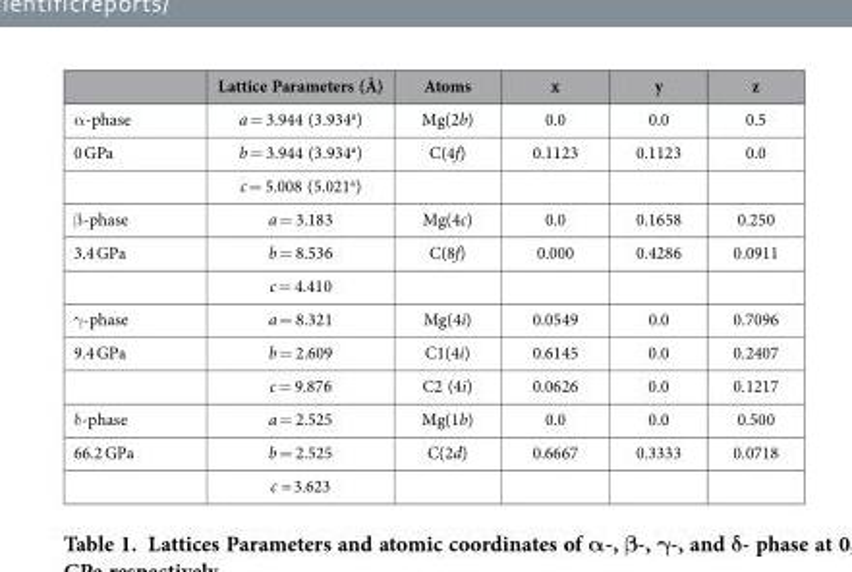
<table><thead><tr><td></td><td>Lattice Parameters (Å)</td><td>Atoms</td><td>x</td><td>y</td><td>z</td></tr></thead><tbody><tr><td>α -phase</td><td>a = 3.944 (3.934<sup>a</sup>)</td><td>Mg(2b)</td><td>0.0</td><td>0.0</td><td>0.5</td></tr><tr><td rowspan="2">0 GPa</td><td>b = 3.944 (3.934<sup>a</sup>)</td><td>C(4f)</td><td>0.1123</td><td>0.1123</td><td>0.0</td></tr><tr><td>c = 5.008 (5.021<sup>a</sup>)</td><td></td><td></td><td></td><td></td></tr><tr><td>β -phase</td><td>a = 3.183</td><td>Mg(4c)</td><td>0.0</td><td>0.1658</td><td>0.250</td></tr><tr><td rowspan="2">3.4 GPa</td><td>b = 8.536</td><td>C(8f)</td><td>0.000</td><td>0.4286</td><td>0.0911</td></tr><tr><td>c = 4.410</td><td></td><td></td><td></td><td></td></tr><tr><td>γ -phase</td><td>a = 8.321</td><td>Mg(4i)</td><td>0.0549</td><td>0.0</td><td>0.7096</td></tr><tr><td rowspan="2">9.4 GPa</td><td>b = 2.609</td><td>C1(4i)</td><td>0.6145</td><td>0.0</td><td>0.2407</td></tr><tr><td>c = 9.876</td><td>C2 (4i)</td><td>0.0626</td><td>0.0</td><td>0.1217</td></tr><tr><td>δ -phase</td><td>a = 2.525</td><td>Mg(1b)</td><td>0.0</td><td>0.0</td><td>0.500</td></tr><tr><td rowspan="2">66.2 GPa</td><td>b = 2.525</td><td>C(2d)</td><td>0.6667</td><td>0.3333</td><td>0.0718</td></tr><tr><td>c = 3.623</td><td></td><td></td><td></td><td></td></tr></tbody></table>